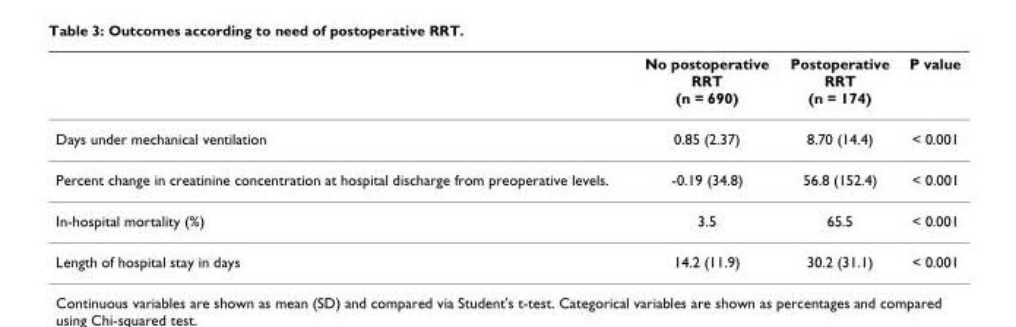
<table><thead><tr><td></td><td>No postoperative RRT (n = 690)</td><td>Postoperative RRT (n = 174)</td><td>P value</td></tr></thead><tbody><tr><td>Days under mechanical ventilation</td><td>0.85 (2.37)</td><td>8.70 (14.4)</td><td>&lt; 0.001</td></tr><tr><td>Percent change in creatinine concentration at hospital discharge from preoperative levels.</td><td>-0.19 (34.8)</td><td>56.8 (152.4)</td><td>&lt; 0.001</td></tr><tr><td>In-hospital mortality (%)</td><td>3.5</td><td>65.5</td><td>&lt; 0.001</td></tr><tr><td>Length of hospital stay in days</td><td>14.2 (11.9)</td><td>30.2 (31.1)</td><td>&lt; 0.001</td></tr></tbody></table>